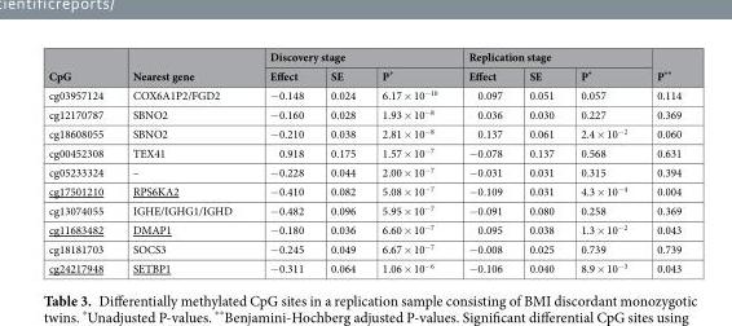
<table><thead><tr><td rowspan="2">CpG</td><td rowspan="2">Nearest gene</td><td colspan="3">Discovery stage</td><td colspan="3">Replication stage</td><td rowspan="2">P**</td></tr><tr><td>Effect</td><td>SE</td><td>P*</td><td>Effect</td><td>SE</td><td>P*</td></tr></thead><tbody><tr><td>cg03957124</td><td>COX6A1P2/FGD2</td><td>−0.148</td><td>0.024</td><td>6.17 × 10<sup>−10</sup></td><td>0.097</td><td>0.051</td><td>0.057</td><td>0.114</td></tr><tr><td>cg12170787</td><td>SBNO2</td><td>−0.160</td><td>0.028</td><td>1.93 × 10<sup>−8</sup></td><td>0.036</td><td>0.030</td><td>0.227</td><td>0.369</td></tr><tr><td>cg18608055</td><td>SBNO2</td><td>−0.210</td><td>0.038</td><td>2.81 × 10<sup>−8</sup></td><td>0.137</td><td>0.061</td><td>2.4 × 10<sup>−2</sup></td><td>0.060</td></tr><tr><td>cg00452308</td><td>TEX41</td><td>0.918</td><td>0.175</td><td>1.57 × 10<sup>−7</sup></td><td>−0.078</td><td>0.137</td><td>0.568</td><td>0.631</td></tr><tr><td>cg05233324</td><td>–</td><td>−0.228</td><td>0.044</td><td>2.00 × 10<sup>−7</sup></td><td>−0.031</td><td>0.031</td><td>0.315</td><td>0.394</td></tr><tr><td>cg17501210</td><td>RPS6KA2</td><td>−0.410</td><td>0.082</td><td>5.08 × 10<sup>−7</sup></td><td>−0.109</td><td>0.031</td><td>4.3 × 10<sup>−4</sup></td><td>0.004</td></tr><tr><td>cg13074055</td><td>IGHE/IGHG1/IGHD</td><td>−0.482</td><td>0.096</td><td>5.95 × 10<sup>−7</sup></td><td>−0.091</td><td>0.080</td><td>0.258</td><td>0.369</td></tr><tr><td>cg11683482</td><td>DMAP1</td><td>−0.180</td><td>0.036</td><td>6.60 × 10<sup>−7</sup></td><td>0.095</td><td>0.038</td><td>1.3 × 10<sup>−2</sup></td><td>0.043</td></tr><tr><td>cg18181703</td><td>SOCS3</td><td>−0.245</td><td>0.049</td><td>6.67 × 10<sup>−7</sup></td><td>−0.008</td><td>0.025</td><td>0.739</td><td>0.739</td></tr><tr><td>cg24217948</td><td>SETBP1</td><td>−0.311</td><td>0.064</td><td>1.06 × 10<sup>−6</sup></td><td>−0.106</td><td>0.040</td><td>8.9 × 10<sup>−3</sup></td><td>0.043</td></tr></tbody></table>